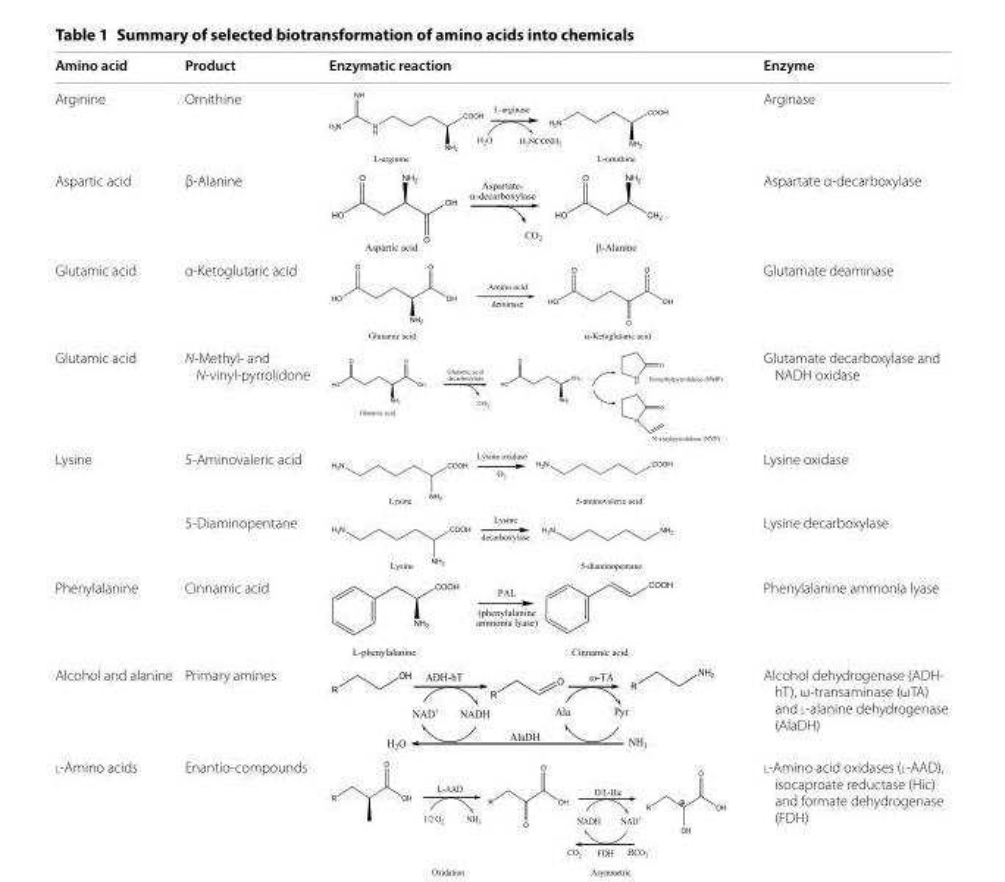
<table><thead><tr><td>Amino acid</td><td>Product</td><td>Enzymatic reaction</td><td>Enzyme</td></tr></thead><tbody><tr><td>Arginine</td><td>Ornithine</td><td></td><td>Arginase</td></tr><tr><td>Aspartic acid</td><td>β‑Alanine</td><td></td><td>Aspartate α‑decarboxylase</td></tr><tr><td>Glutamic acid</td><td>α‑Ketoglutaric acid</td><td></td><td>Glutamate deaminase</td></tr><tr><td>Glutamic acid</td><td>N‑Methyl‑ and N‑vinyl‑pyrrolidone</td><td></td><td>Glutamate decarboxylase and NADH oxidase</td></tr><tr><td rowspan="2">Lysine</td><td>5‑Aminovaleric acid</td><td></td><td>Lysine oxidase</td></tr><tr><td>5‑Diaminopentane</td><td></td><td>Lysine decarboxylase</td></tr><tr><td>Phenylalanine</td><td>Cinnamic acid</td><td></td><td>Phenylalanine ammonia lyase</td></tr><tr><td>Alcohol and alanine</td><td>Primary amines</td><td></td><td>Alcohol dehydrogenase (ADH‑ hT), ω‑transaminase (ωTA) and l‑alanine dehydrogenase (AlaDH)</td></tr><tr><td>l‑Amino acids</td><td>Enantio‑compounds</td><td></td><td>l‑Amino acid oxidases (l‑AAD), isocaproate reductase (Hic) and formate dehydrogenase (FDH)</td></tr></tbody></table>